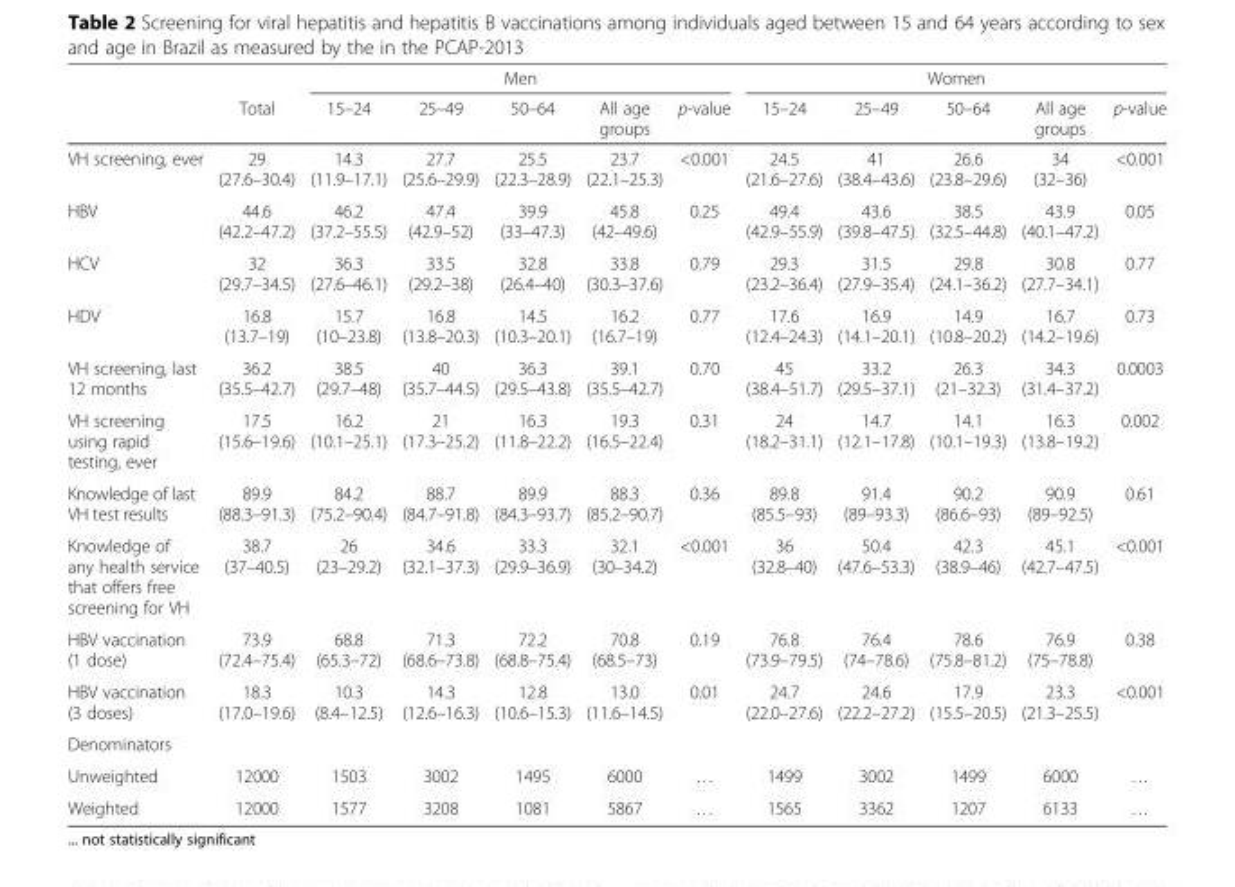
<table><thead><tr><td rowspan="2"></td><td rowspan="2">Total</td><td colspan="5">Men</td><td colspan="5">Women</td></tr><tr><td>15–24</td><td>25–49</td><td>50–64</td><td>All age groups</td><td>p-value</td><td>15–24</td><td>25–49</td><td>50–64</td><td>All age groups</td><td>p-value</td></tr></thead><tbody><tr><td>VH screening, ever</td><td>29 (27.6–30.4)</td><td>14.3 (11.9–17.1)</td><td>27.7 (25.6–29.9)</td><td>25.5 (22.3–28.9)</td><td>23.7 (22.1–25.3)</td><td>&lt;0.001</td><td>24.5 (21.6–27.6)</td><td>41 (38.4–43.6)</td><td>26.6 (23.8–29.6)</td><td>34 (32–36)</td><td>&lt;0.001</td></tr><tr><td>HBV</td><td>44.6 (42.2–47.2)</td><td>46.2 (37.2–55.5)</td><td>47.4 (42.9–52)</td><td>39.9 (33–47.3)</td><td>45.8 (42–49.6)</td><td>0.25</td><td>49.4 (42.9–55.9)</td><td>43.6 (39.8–47.5)</td><td>38.5 (32.5–44.8)</td><td>43.9 (40.1–47.2)</td><td>0.05</td></tr><tr><td>HCV</td><td>32 (29.7–34.5)</td><td>36.3 (27.6–46.1)</td><td>33.5 (29.2–38)</td><td>32.8 (26.4–40)</td><td>33.8 (30.3–37.6)</td><td>0.79</td><td>29.3 (23.2–36.4)</td><td>31.5 (27.9–35.4)</td><td>29.8 (24.1–36.2)</td><td>30.8 (27.7–34.1)</td><td>0.77</td></tr><tr><td>HDV</td><td>16.8 (13.7–19)</td><td>15.7 (10–23.8)</td><td>16.8 (13.8–20.3)</td><td>14.5 (10.3–20.1)</td><td>16.2 (16.7–19)</td><td>0.77</td><td>17.6 (12.4–24.3)</td><td>16.9 (14.1–20.1)</td><td>14.9 (10.8–20.2)</td><td>16.7 (14.2–19.6)</td><td>0.73</td></tr><tr><td>VH screening, last 12 months</td><td>36.2 (35.5–42.7)</td><td>38.5 (29.7–48)</td><td>40 (35.7–44.5)</td><td>36.3 (29.5–43.8)</td><td>39.1 (35.5–42.7)</td><td>0.70</td><td>45 (38.4–51.7)</td><td>33.2 (29.5–37.1)</td><td>26.3 (21–32.3)</td><td>34.3 (31.4–37.2)</td><td>0.0003</td></tr><tr><td>VH screening using rapid testing, ever</td><td>17.5 (15.6–19.6)</td><td>16.2 (10.1–25.1)</td><td>21 (17.3–25.2)</td><td>16.3 (11.8–22.2)</td><td>19.3 (16.5–22.4)</td><td>0.31</td><td>24 (18.2–31.1)</td><td>14.7 (12.1–17.8)</td><td>14.1 (10.1–19.3)</td><td>16.3 (13.8–19.2)</td><td>0.002</td></tr><tr><td>Knowledge of last VH test results</td><td>89.9 (88.3–91.3)</td><td>84.2 (75.2–90.4)</td><td>88.7 (84.7–91.8)</td><td>89.9 (84.3–93.7)</td><td>88.3 (85.2–90.7)</td><td>0.36</td><td>89.8 (85.5–93)</td><td>91.4 (89–93.3)</td><td>90.2 (86.6–93)</td><td>90.9 (89–92.5)</td><td>0.61</td></tr><tr><td>Knowledge of any health service that offers free screening for VH</td><td>38.7 (37–40.5)</td><td>26 (23–29.2)</td><td>34.6 (32.1–37.3)</td><td>33.3 (29.9–36.9)</td><td>32.1 (30–34.2)</td><td>&lt;0.001</td><td>36 (32.8–40)</td><td>50.4 (47.6–53.3)</td><td>42.3 (38.9–46)</td><td>45.1 (42.7–47.5)</td><td>&lt;0.001</td></tr><tr><td>HBV vaccination (1 dose)</td><td>73.9 (72.4–75.4)</td><td>68.8 (65.3–72)</td><td>71.3 (68.6–73.8)</td><td>72.2 (68.8–75.4)</td><td>70.8 (68.5–73)</td><td>0.19</td><td>76.8 (73.9–79.5)</td><td>76.4 (74–78.6)</td><td>78.6 (75.8–81.2)</td><td>76.9 (75–78.8)</td><td>0.38</td></tr><tr><td>HBV vaccination (3 doses)</td><td>18.3 (17.0–19.6)</td><td>10.3 (8.4–12.5)</td><td>14.3 (12.6–16.3)</td><td>12.8 (10.6–15.3)</td><td>13.0 (11.6–14.5)</td><td>0.01</td><td>24.7 (22.0–27.6)</td><td>24.6 (22.2–27.2)</td><td>17.9 (15.5–20.5)</td><td>23.3 (21.3–25.5)</td><td>&lt;0.001</td></tr><tr><td colspan="12">Denominators</td></tr><tr><td>Unweighted</td><td>12000</td><td>1503</td><td>3002</td><td>1495</td><td>6000</td><td>…</td><td>1499</td><td>3002</td><td>1499</td><td>6000</td><td>…</td></tr><tr><td>Weighted</td><td>12000</td><td>1577</td><td>3208</td><td>1081</td><td>5867</td><td>…</td><td>1565</td><td>3362</td><td>1207</td><td>6133</td><td>…</td></tr></tbody></table>